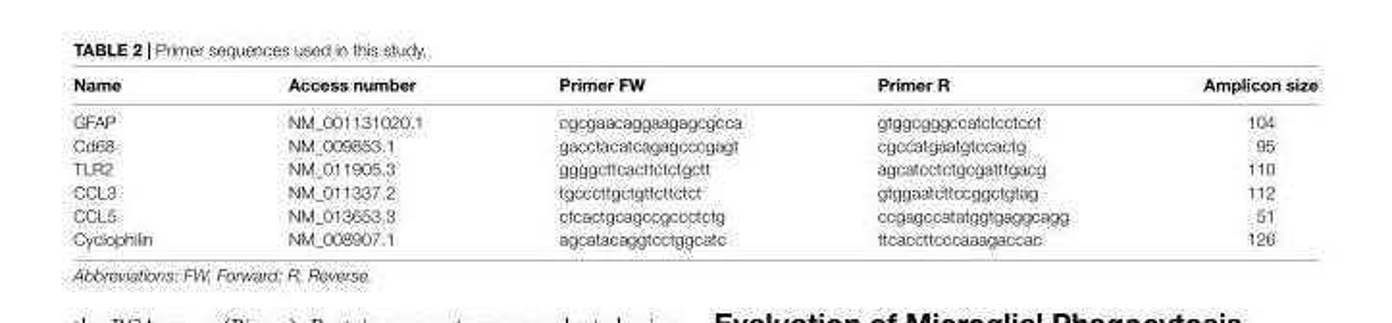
<table><thead><tr><td>Name</td><td>Access number</td><td>Primer FW</td><td>Primer R</td><td>Amplicon size</td></tr></thead><tbody><tr><td>GFAP</td><td>NM_001131020.1</td><td>cgcgaacaggaagagcgcca</td><td>gtggcgggccatctcctcct</td><td>104</td></tr><tr><td>Cd68</td><td>NM_009853.1</td><td>gacctacatcagagcccgagt</td><td>cgccatgaatgtccactg</td><td>95</td></tr><tr><td>TLR2</td><td>NM_011905.3</td><td>ggggcttcacttctctgctt</td><td>agcatcctctgcgatttgacg</td><td>110</td></tr><tr><td>CCL3</td><td>NM_011337.2</td><td>tgcccttgctgttcttctct</td><td>gtggaatcttccggctgtag</td><td>112</td></tr><tr><td>CCL5</td><td>NM_013653.3</td><td>ctcactgcagccgccctctg</td><td>ccgagccatatggtgaggcagg</td><td>51</td></tr><tr><td>Cyclophilin</td><td>NM_008907.1</td><td>agcatacaggtcctggcatc</td><td>ttcaccttcccaaagaccac</td><td>126</td></tr></tbody></table>